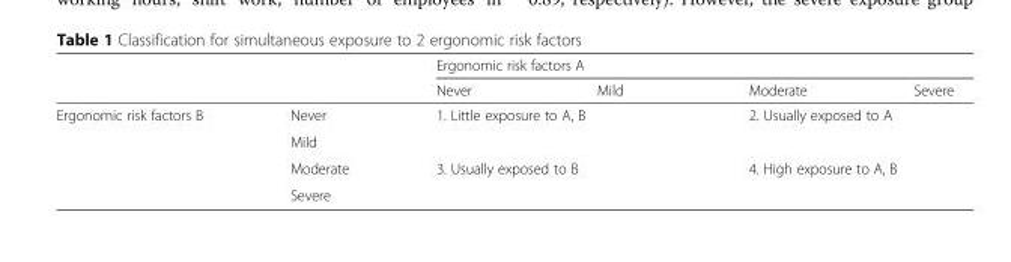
<table><thead><tr><td rowspan="2"></td><td rowspan="2"></td><td colspan="4">Ergonomic risk factors A</td></tr><tr><td>Never</td><td>Mild</td><td>Moderate</td><td>Severe</td></tr></thead><tbody><tr><td rowspan="4">Ergonomic risk factors B</td><td>Never</td><td rowspan="2" colspan="2">1. Little exposure to A, B</td><td rowspan="2" colspan="2">2. Usually exposed to A</td></tr><tr><td>Mild</td></tr><tr><td>Moderate</td><td rowspan="2" colspan="2">3. Usually exposed to B</td><td rowspan="2" colspan="2">4. High exposure to A, B</td></tr><tr><td>Severe</td></tr></tbody></table>